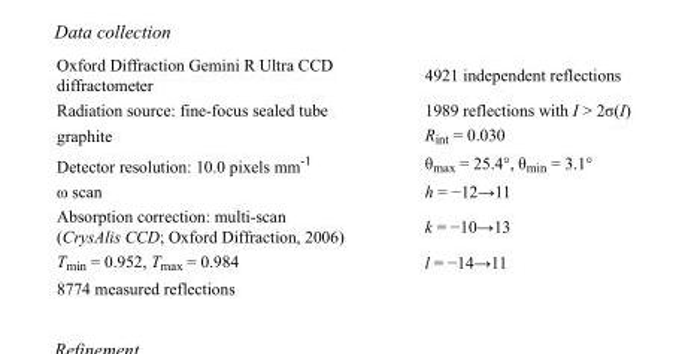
<table><tbody><tr><td>Oxford Diffraction Gemini R Ultra CCD diffractometer</td><td>4921 independent reflections</td></tr><tr><td>Radiation source: fine-focus sealed tube</td><td>1989 reflections with I &gt; 2σ(I)</td></tr><tr><td>graphite</td><td>R<sub>int</sub> = 0.030</td></tr><tr><td>Detector resolution: 10.0 pixels mm<sup>-1</sup></td><td>θ<sub>max</sub> = 25.4°, θ<sub>min</sub> = 3.1°</td></tr><tr><td>ω scan</td><td>h = −12→11</td></tr><tr><td>Absorption correction: multi-scan (CrysAlis CCD; Oxford Diffraction, 2006)</td><td>k = −10→13</td></tr><tr><td>T<sub>min</sub> = 0.952, T<sub>max</sub> = 0.984</td><td>l = −14→11</td></tr><tr><td>8774 measured reflections</td><td></td></tr></tbody></table>